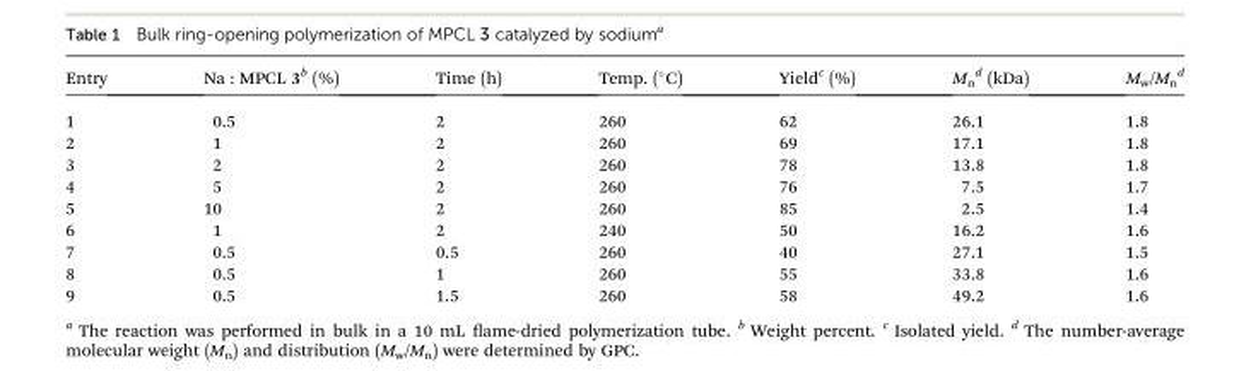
<table><thead><tr><td>Entry</td><td>Na : MPCL 3<sup>b</sup> (%)</td><td>Time (h)</td><td>Temp. (°C)</td><td>Yield<sup>c</sup> (%)</td><td>M<sub>n</sub> <sup>d</sup> (kDa)</td><td>M<sub>w</sub>/M<sub>n</sub> <sup>d</sup></td></tr></thead><tbody><tr><td>1</td><td>0.5</td><td>2</td><td>260</td><td>62</td><td>26.1</td><td>1.8</td></tr><tr><td>2</td><td>1</td><td>2</td><td>260</td><td>69</td><td>17.1</td><td>1.8</td></tr><tr><td>3</td><td>2</td><td>2</td><td>260</td><td>78</td><td>13.8</td><td>1.8</td></tr><tr><td>4</td><td>5</td><td>2</td><td>260</td><td>76</td><td>7.5</td><td>1.7</td></tr><tr><td>5</td><td>10</td><td>2</td><td>260</td><td>85</td><td>2.5</td><td>1.4</td></tr><tr><td>6</td><td>1</td><td>2</td><td>240</td><td>50</td><td>16.2</td><td>1.6</td></tr><tr><td>7</td><td>0.5</td><td>0.5</td><td>260</td><td>40</td><td>27.1</td><td>1.5</td></tr><tr><td>8</td><td>0.5</td><td>1</td><td>260</td><td>55</td><td>33.8</td><td>1.6</td></tr><tr><td>9</td><td>0.5</td><td>1.5</td><td>260</td><td>58</td><td>49.2</td><td>1.6</td></tr></tbody></table>